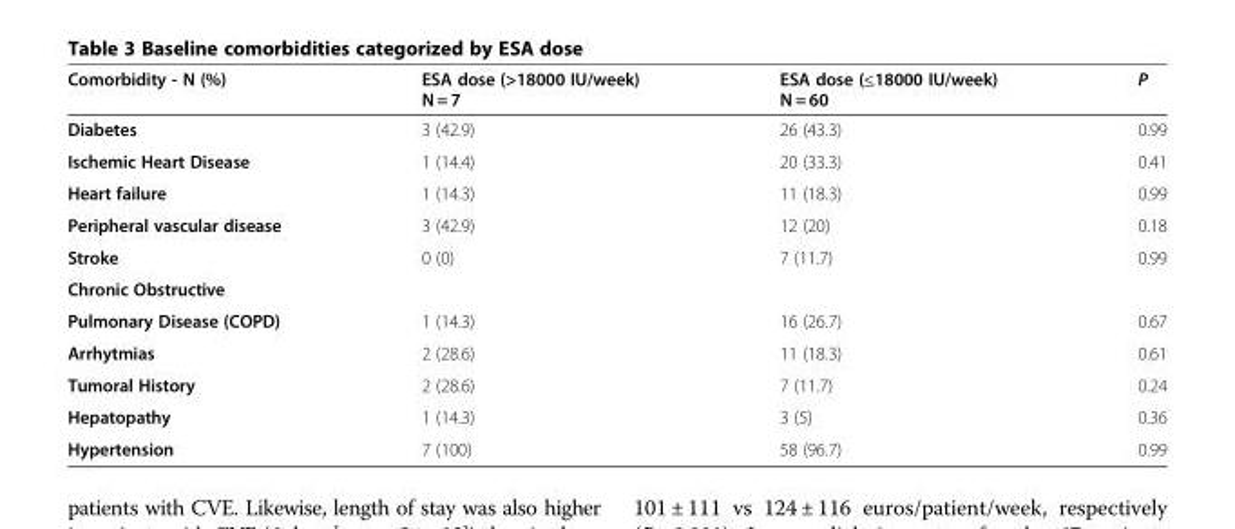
<table><thead><tr><td>Comorbidity - N (%)</td><td>ESA dose (&gt;18000 IU/week) N = 7</td><td>ESA dose (≤18000 IU/week) N = 60</td><td>P</td></tr></thead><tbody><tr><td>Diabetes</td><td>3 (42.9)</td><td>26 (43.3)</td><td>0.99</td></tr><tr><td>Ischemic Heart Disease</td><td>1 (14.4)</td><td>20 (33.3)</td><td>0.41</td></tr><tr><td>Heart failure</td><td>1 (14.3)</td><td>11 (18.3)</td><td>0.99</td></tr><tr><td>Peripheral vascular disease</td><td>3 (42.9)</td><td>12 (20)</td><td>0.18</td></tr><tr><td>Stroke</td><td>0 (0)</td><td>7 (11.7)</td><td>0.99</td></tr><tr><td colspan="4">Chronic Obstructive</td></tr><tr><td>Pulmonary Disease (COPD)</td><td>1 (14.3)</td><td>16 (26.7)</td><td>0.67</td></tr><tr><td>Arrhytmias</td><td>2 (28.6)</td><td>11 (18.3)</td><td>0.61</td></tr><tr><td>Tumoral History</td><td>2 (28.6)</td><td>7 (11.7)</td><td>0.24</td></tr><tr><td>Hepatopathy</td><td>1 (14.3)</td><td>3 (5)</td><td>0.36</td></tr><tr><td>Hypertension</td><td>7 (100)</td><td>58 (96.7)</td><td>0.99</td></tr></tbody></table>